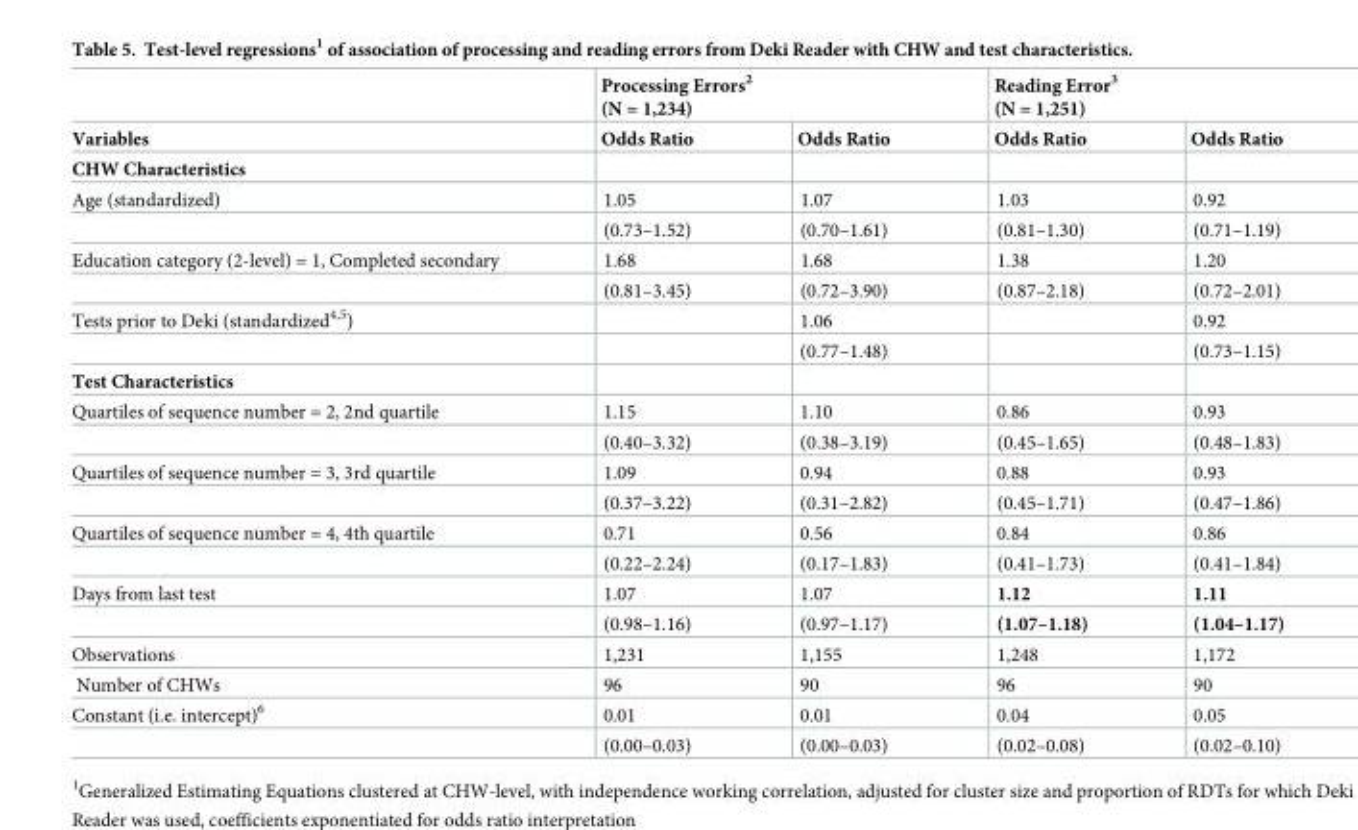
<table><thead><tr><td rowspan="2">Variables</td><td colspan="2">Processing Errors<sup>2</sup> (N = 1,234)</td><td colspan="2">Reading Error<sup>3</sup> (N = 1,251)</td></tr><tr><td>Odds Ratio</td><td>Odds Ratio</td><td>Odds Ratio</td><td>Odds Ratio</td></tr></thead><tbody><tr><td colspan="5">CHW Characteristics</td></tr><tr><td rowspan="2">Age (standardized)</td><td>1.05</td><td>1.07</td><td>1.03</td><td>0.92</td></tr><tr><td>(0.73–1.52)</td><td>(0.70–1.61)</td><td>(0.81–1.30)</td><td>(0.71–1.19)</td></tr><tr><td rowspan="2">Education category (2-level) = 1, Completed secondary</td><td>1.68</td><td>1.68</td><td>1.38</td><td>1.20</td></tr><tr><td>(0.81–3.45)</td><td>(0.72–3.90)</td><td>(0.87–2.18)</td><td>(0.72–2.01)</td></tr><tr><td rowspan="2">Tests prior to Deki (standardized<sup>4,5</sup>)</td><td></td><td>1.06</td><td></td><td>0.92</td></tr><tr><td></td><td>(0.77–1.48)</td><td></td><td>(0.73–1.15)</td></tr><tr><td colspan="5">Test Characteristics</td></tr><tr><td rowspan="2">Quartiles of sequence number = 2, 2nd quartile</td><td>1.15</td><td>1.10</td><td>0.86</td><td>0.93</td></tr><tr><td>(0.40–3.32)</td><td>(0.38–3.19)</td><td>(0.45–1.65)</td><td>(0.48–1.83)</td></tr><tr><td rowspan="2">Quartiles of sequence number = 3, 3rd quartile</td><td>1.09</td><td>0.94</td><td>0.88</td><td>0.93</td></tr><tr><td>(0.37–3.22)</td><td>(0.31–2.82)</td><td>(0.45–1.71)</td><td>(0.47–1.86)</td></tr><tr><td rowspan="2">Quartiles of sequence number = 4, 4th quartile</td><td>0.71</td><td>0.56</td><td>0.84</td><td>0.86</td></tr><tr><td>(0.22–2.24)</td><td>(0.17–1.83)</td><td>(0.41–1.73)</td><td>(0.41–1.84)</td></tr><tr><td rowspan="2">Days from last test</td><td>1.07</td><td>1.07</td><td>1.12</td><td>1.11</td></tr><tr><td>(0.98–1.16)</td><td>(0.97–1.17)</td><td>(1.07–1.18)</td><td>(1.04–1.17)</td></tr><tr><td>Observations</td><td>1,231</td><td>1,155</td><td>1,248</td><td>1,172</td></tr><tr><td>Number of CHWs</td><td>96</td><td>90</td><td>96</td><td>90</td></tr><tr><td rowspan="2">Constant (i.e. intercept)<sup>6</sup></td><td>0.01</td><td>0.01</td><td>0.04</td><td>0.05</td></tr><tr><td>(0.00–0.03)</td><td>(0.00–0.03)</td><td>(0.02–0.08)</td><td>(0.02–0.10)</td></tr></tbody></table>